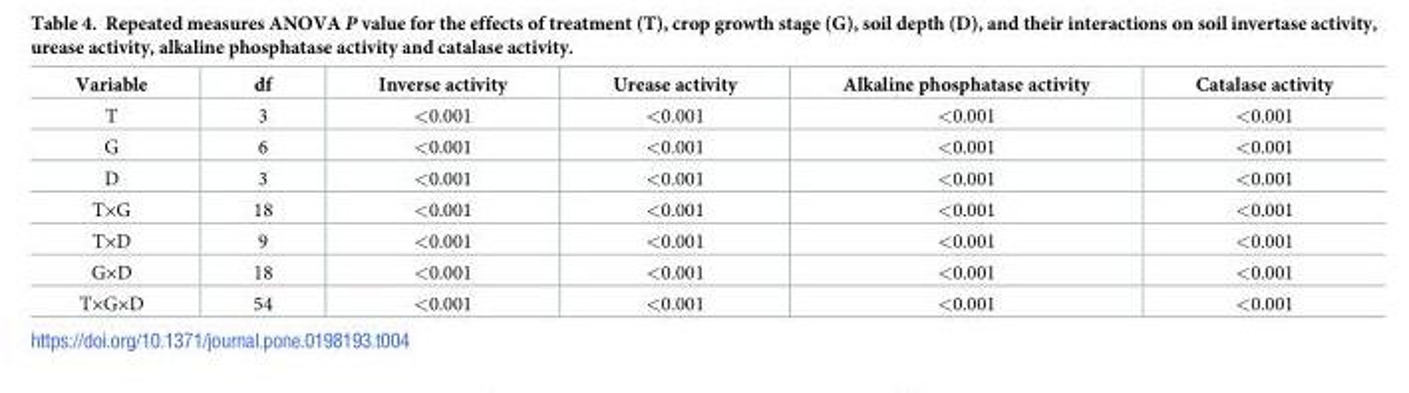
<table><thead><tr><td>Variable</td><td>df</td><td>Inverse activity</td><td>Urease activity</td><td>Alkaline phosphatase activity</td><td>Catalase activity</td></tr></thead><tbody><tr><td>T</td><td>3</td><td>&lt;0.001</td><td>&lt;0.001</td><td>&lt;0.001</td><td>&lt;0.001</td></tr><tr><td>G</td><td>6</td><td>&lt;0.001</td><td>&lt;0.001</td><td>&lt;0.001</td><td>&lt;0.001</td></tr><tr><td>D</td><td>3</td><td>&lt;0.001</td><td>&lt;0.001</td><td>&lt;0.001</td><td>&lt;0.001</td></tr><tr><td>T×G</td><td>18</td><td>&lt;0.001</td><td>&lt;0.001</td><td>&lt;0.001</td><td>&lt;0.001</td></tr><tr><td>T×D</td><td>9</td><td>&lt;0.001</td><td>&lt;0.001</td><td>&lt;0.001</td><td>&lt;0.001</td></tr><tr><td>G×D</td><td>18</td><td>&lt;0.001</td><td>&lt;0.001</td><td>&lt;0.001</td><td>&lt;0.001</td></tr><tr><td>T×G×D</td><td>54</td><td>&lt;0.001</td><td>&lt;0.001</td><td>&lt;0.001</td><td>&lt;0.001</td></tr></tbody></table>